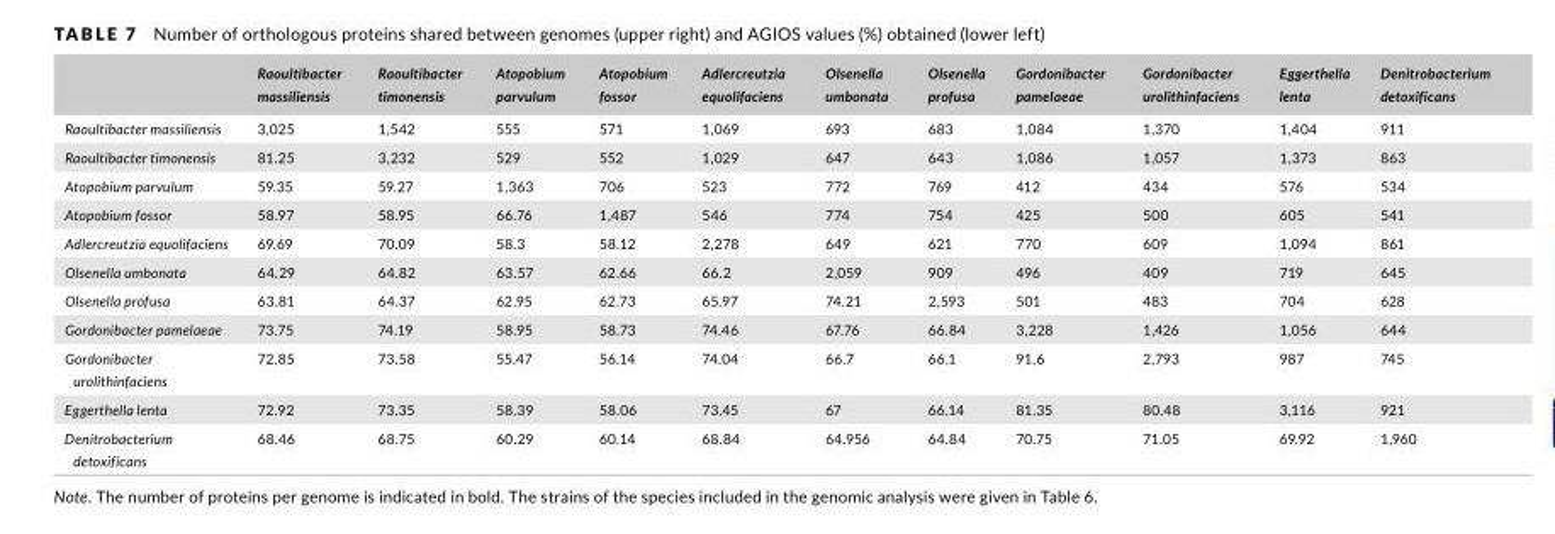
<table><thead><tr><td></td><td>Raoultibacter massiliensis</td><td>Raoultibacter timonensis</td><td>Atopobium parvulum</td><td>Atopobium fossor</td><td>Adlercreutzia equolifaciens</td><td>Olsenella umbonata</td><td>Olsenella profusa</td><td>Gordonibacter pamelaeae</td><td>Gordonibacter urolithinfaciens</td><td>Eggerthella lenta</td><td>Denitrobacterium detoxificans</td></tr></thead><tbody><tr><td>Raoultibacter massiliensis</td><td>3,025</td><td>1,542</td><td>555</td><td>571</td><td>1,069</td><td>693</td><td>683</td><td>1,084</td><td>1,370</td><td>1,404</td><td>911</td></tr><tr><td>Raoultibacter timonensis</td><td>81.25</td><td>3,232</td><td>529</td><td>552</td><td>1,029</td><td>647</td><td>643</td><td>1,086</td><td>1,057</td><td>1,373</td><td>863</td></tr><tr><td>Atopobium parvulum</td><td>59.35</td><td>59.27</td><td>1,363</td><td>706</td><td>523</td><td>772</td><td>769</td><td>412</td><td>434</td><td>576</td><td>534</td></tr><tr><td>Atopobium fossor</td><td>58.97</td><td>58.95</td><td>66.76</td><td>1,487</td><td>546</td><td>774</td><td>754</td><td>425</td><td>500</td><td>605</td><td>541</td></tr><tr><td>Adlercreutzia equolifaciens</td><td>69.69</td><td>70.09</td><td>58.3</td><td>58.12</td><td>2,278</td><td>649</td><td>621</td><td>770</td><td>609</td><td>1,094</td><td>861</td></tr><tr><td>Olsenella umbonata</td><td>64.29</td><td>64.82</td><td>63.57</td><td>62.66</td><td>66.2</td><td>2,059</td><td>909</td><td>496</td><td>409</td><td>719</td><td>645</td></tr><tr><td>Olsenella profusa</td><td>63.81</td><td>64.37</td><td>62.95</td><td>62.73</td><td>65.97</td><td>74.21</td><td>2,593</td><td>501</td><td>483</td><td>704</td><td>628</td></tr><tr><td>Gordonibacter pamelaeae</td><td>73.75</td><td>74.19</td><td>58.95</td><td>58.73</td><td>74.46</td><td>67.76</td><td>66.84</td><td>3,228</td><td>1,426</td><td>1,056</td><td>644</td></tr><tr><td>Gordonibacter urolithinfaciens</td><td>72.85</td><td>73.58</td><td>55.47</td><td>56.14</td><td>74.04</td><td>66.7</td><td>66.1</td><td>91.6</td><td>2,793</td><td>987</td><td>745</td></tr><tr><td>Eggerthella lenta</td><td>72.92</td><td>73.35</td><td>58.39</td><td>58.06</td><td>73.45</td><td>67</td><td>66.14</td><td>81.35</td><td>80.48</td><td>3,116</td><td>921</td></tr><tr><td>Denitrobacterium detoxificans</td><td>68.46</td><td>68.75</td><td>60.29</td><td>60.14</td><td>68.84</td><td>64.956</td><td>64.84</td><td>70.75</td><td>71.05</td><td>69.92</td><td>1,960</td></tr></tbody></table>